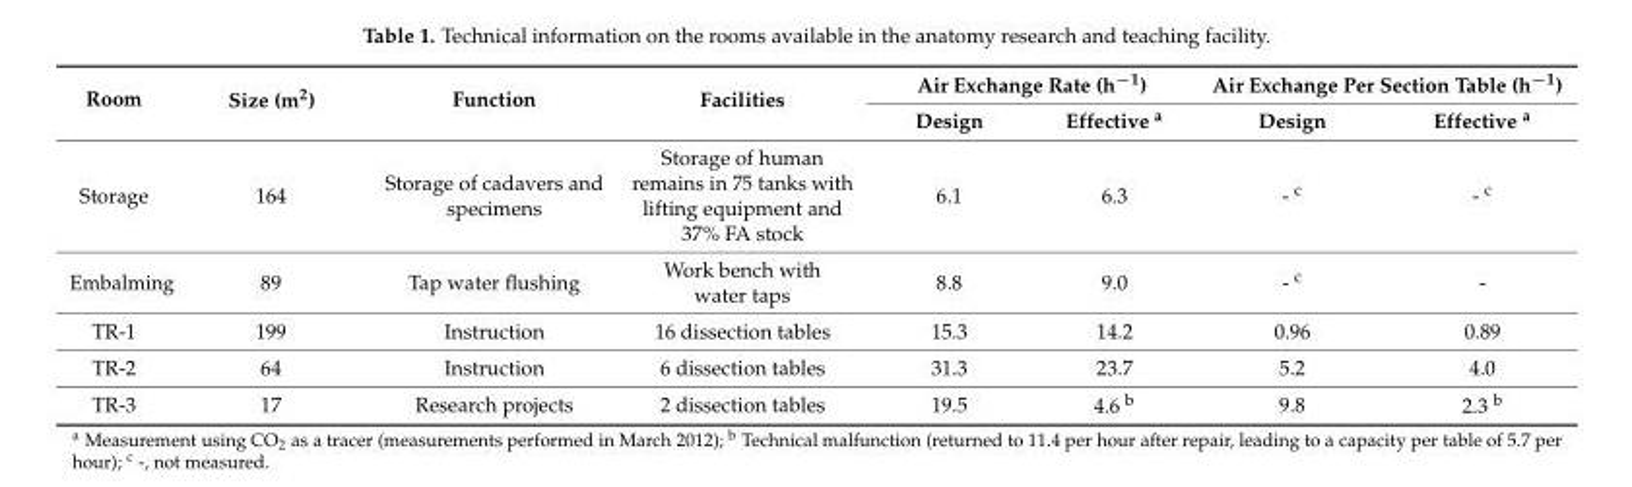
<table><thead><tr><td rowspan="2">Room</td><td rowspan="2">Size (m<sup>2</sup>)</td><td rowspan="2">Function</td><td rowspan="2">Facilities</td><td colspan="2">Air Exchange Rate (h<sup>−1</sup>)</td><td colspan="2">Air Exchange Per Section Table (h<sup>−1</sup>)</td></tr><tr><td>Design</td><td>Effective <sup>a</sup></td><td>Design</td><td>Effective <sup>a</sup></td></tr></thead><tbody><tr><td>Storage</td><td>164</td><td>Storage of cadavers and specimens</td><td>Storage of human remains in 75 tanks with lifting equipment and 37% FA stock</td><td>6.1</td><td>6.3</td><td>- <sup>c</sup></td><td>- <sup>c</sup></td></tr><tr><td>Embalming</td><td>89</td><td>Tap water flushing</td><td>Work bench with water taps</td><td>8.8</td><td>9.0</td><td>- <sup>c</sup></td><td>-</td></tr><tr><td>TR-1</td><td>199</td><td>Instruction</td><td>16 dissection tables</td><td>15.3</td><td>14.2</td><td>0.96</td><td>0.89</td></tr><tr><td>TR-2</td><td>64</td><td>Instruction</td><td>6 dissection tables</td><td>31.3</td><td>23.7</td><td>5.2</td><td>4.0</td></tr><tr><td>TR-3</td><td>17</td><td>Research projects</td><td>2 dissection tables</td><td>19.5</td><td>4.6 <sup>b</sup></td><td>9.8</td><td>2.3 <sup>b</sup></td></tr></tbody></table>